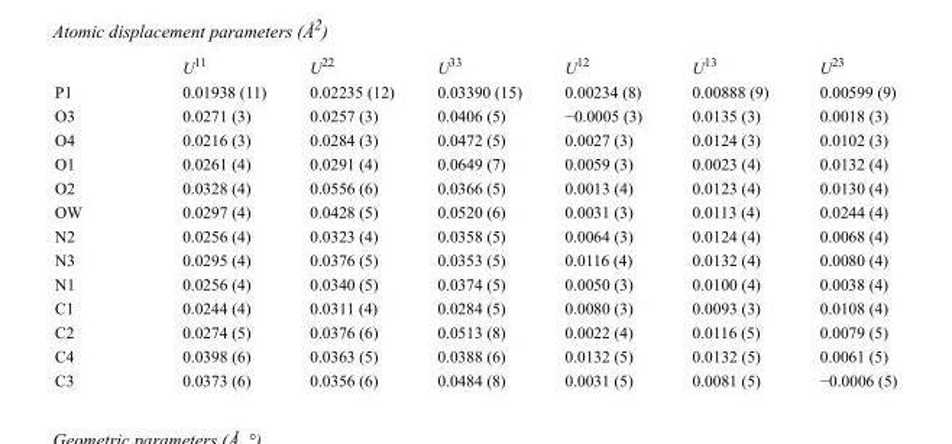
<table><thead><tr><td></td><td>U<sup>11</sup></td><td>U<sup>22</sup></td><td>U<sup>33</sup></td><td>U<sup>12</sup></td><td>U<sup>13</sup></td><td>U<sup>23</sup></td></tr></thead><tbody><tr><td>P1</td><td>0.01938 (11)</td><td>0.02235 (12)</td><td>0.03390 (15)</td><td>0.00234 (8)</td><td>0.00888 (9)</td><td>0.00599 (9)</td></tr><tr><td>O3</td><td>0.0271 (3)</td><td>0.0257 (3)</td><td>0.0406 (5)</td><td>−0.0005 (3)</td><td>0.0135 (3)</td><td>0.0018 (3)</td></tr><tr><td>O4</td><td>0.0216 (3)</td><td>0.0284 (3)</td><td>0.0472 (5)</td><td>0.0027 (3)</td><td>0.0124 (3)</td><td>0.0102 (3)</td></tr><tr><td>O1</td><td>0.0261 (4)</td><td>0.0291 (4)</td><td>0.0649 (7)</td><td>0.0059 (3)</td><td>0.0023 (4)</td><td>0.0132 (4)</td></tr><tr><td>O2</td><td>0.0328 (4)</td><td>0.0556 (6)</td><td>0.0366 (5)</td><td>0.0013 (4)</td><td>0.0123 (4)</td><td>0.0130 (4)</td></tr><tr><td>OW</td><td>0.0297 (4)</td><td>0.0428 (5)</td><td>0.0520 (6)</td><td>0.0031 (3)</td><td>0.0113 (4)</td><td>0.0244 (4)</td></tr><tr><td>N2</td><td>0.0256 (4)</td><td>0.0323 (4)</td><td>0.0358 (5)</td><td>0.0064 (3)</td><td>0.0124 (4)</td><td>0.0068 (4)</td></tr><tr><td>N3</td><td>0.0295 (4)</td><td>0.0376 (5)</td><td>0.0353 (5)</td><td>0.0116 (4)</td><td>0.0132 (4)</td><td>0.0080 (4)</td></tr><tr><td>N1</td><td>0.0256 (4)</td><td>0.0340 (5)</td><td>0.0374 (5)</td><td>0.0050 (3)</td><td>0.0100 (4)</td><td>0.0038 (4)</td></tr><tr><td>C1</td><td>0.0244 (4)</td><td>0.0311 (4)</td><td>0.0284 (5)</td><td>0.0080 (3)</td><td>0.0093 (3)</td><td>0.0108 (4)</td></tr><tr><td>C2</td><td>0.0274 (5)</td><td>0.0376 (6)</td><td>0.0513 (8)</td><td>0.0022 (4)</td><td>0.0116 (5)</td><td>0.0079 (5)</td></tr><tr><td>C4</td><td>0.0398 (6)</td><td>0.0363 (5)</td><td>0.0388 (6)</td><td>0.0132 (5)</td><td>0.0132 (5)</td><td>0.0061 (5)</td></tr><tr><td>C3</td><td>0.0373 (6)</td><td>0.0356 (6)</td><td>0.0484 (8)</td><td>0.0031 (5)</td><td>0.0081 (5)</td><td>−0.0006 (5)</td></tr></tbody></table>